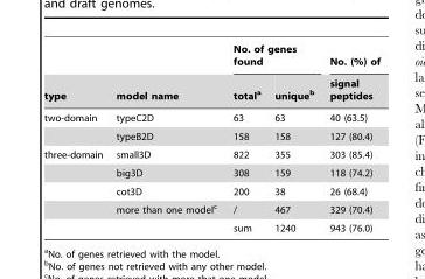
<table><thead><tr><td rowspan="2">type</td><td rowspan="2">model name</td><td colspan="2">No. of genes found</td><td rowspan="2">No. (%) of signal peptides</td></tr><tr><td>total<sup>a</sup></td><td>unique<sup>b</sup></td></tr></thead><tbody><tr><td rowspan="2">two-domain</td><td>typeC2D</td><td>63</td><td>63</td><td>40 (63.5)</td></tr><tr><td>typeB2D</td><td>158</td><td>158</td><td>127 (80.4)</td></tr><tr><td rowspan="5">three-domain</td><td>small3D</td><td>822</td><td>355</td><td>303 (85.4)</td></tr><tr><td>big3D</td><td>308</td><td>159</td><td>118 (74.2)</td></tr><tr><td>cot3D</td><td>200</td><td>38</td><td>26 (68.4)</td></tr><tr><td>more than one model<sup>c</sup></td><td>/</td><td>467</td><td>329 (70.4)</td></tr><tr><td></td><td>sum</td><td>1240</td><td>943 (76.0)</td></tr></tbody></table>